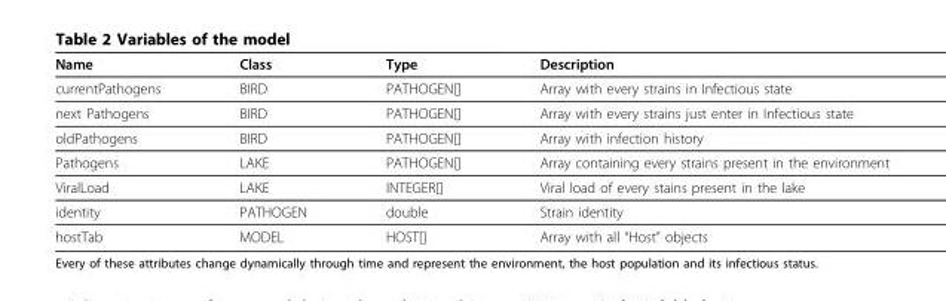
<table><thead><tr><td>Name</td><td>Class</td><td>Type</td><td>Description</td></tr></thead><tbody><tr><td>currentPathogens</td><td>BIRD</td><td>PATHOGEN[]</td><td>Array with every strains in Infectious state</td></tr><tr><td>next Pathogens</td><td>BIRD</td><td>PATHOGEN[]</td><td>Array with every strains just enter in Infectious state</td></tr><tr><td>oldPathogens</td><td>BIRD</td><td>PATHOGEN[]</td><td>Array with infection history</td></tr><tr><td>Pathogens</td><td>LAKE</td><td>PATHOGEN[]</td><td>Array containing every strains present in the environment</td></tr><tr><td>ViralLoad</td><td>LAKE</td><td>INTEGER[]</td><td>Viral load of every stains present in the lake</td></tr><tr><td>identity</td><td>PATHOGEN</td><td>double</td><td>Strain identity</td></tr><tr><td>hostTab</td><td>MODEL</td><td>HOST[]</td><td>Array with all “Host” objects</td></tr></tbody></table>